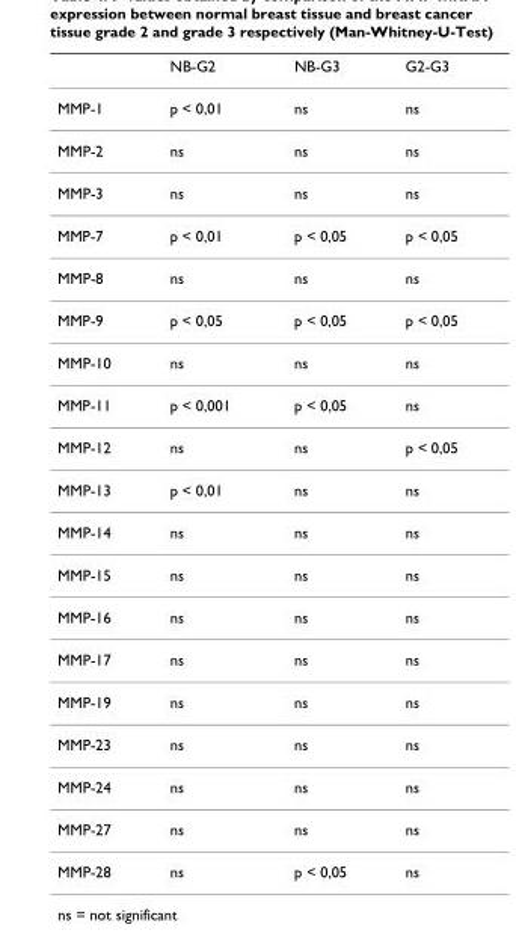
<table><thead><tr><td></td><td>NB-G2</td><td>NB-G3</td><td>G2-G3</td></tr></thead><tbody><tr><td>MMP-1</td><td>p &lt; 0,01</td><td>ns</td><td>ns</td></tr><tr><td>MMP-2</td><td>ns</td><td>ns</td><td>ns</td></tr><tr><td>MMP-3</td><td>ns</td><td>ns</td><td>ns</td></tr><tr><td>MMP-7</td><td>p &lt; 0,01</td><td>p &lt; 0,05</td><td>p &lt; 0,05</td></tr><tr><td>MMP-8</td><td>ns</td><td>ns</td><td>ns</td></tr><tr><td>MMP-9</td><td>p &lt; 0,05</td><td>p &lt; 0,05</td><td>p &lt; 0,05</td></tr><tr><td>MMP-10</td><td>ns</td><td>ns</td><td>ns</td></tr><tr><td>MMP-11</td><td>p &lt; 0,001</td><td>p &lt; 0,05</td><td>ns</td></tr><tr><td>MMP-12</td><td>ns</td><td>ns</td><td>p &lt; 0,05</td></tr><tr><td>MMP-13</td><td>p &lt; 0,01</td><td>ns</td><td>ns</td></tr><tr><td>MMP-14</td><td>ns</td><td>ns</td><td>ns</td></tr><tr><td>MMP-15</td><td>ns</td><td>ns</td><td>ns</td></tr><tr><td>MMP-16</td><td>ns</td><td>ns</td><td>ns</td></tr><tr><td>MMP-17</td><td>ns</td><td>ns</td><td>ns</td></tr><tr><td>MMP-19</td><td>ns</td><td>ns</td><td>ns</td></tr><tr><td>MMP-23</td><td>ns</td><td>ns</td><td>ns</td></tr><tr><td>MMP-24</td><td>ns</td><td>ns</td><td>ns</td></tr><tr><td>MMP-27</td><td>ns</td><td>ns</td><td>ns</td></tr><tr><td>MMP-28</td><td>ns</td><td>p &lt; 0,05</td><td>ns</td></tr></tbody></table>